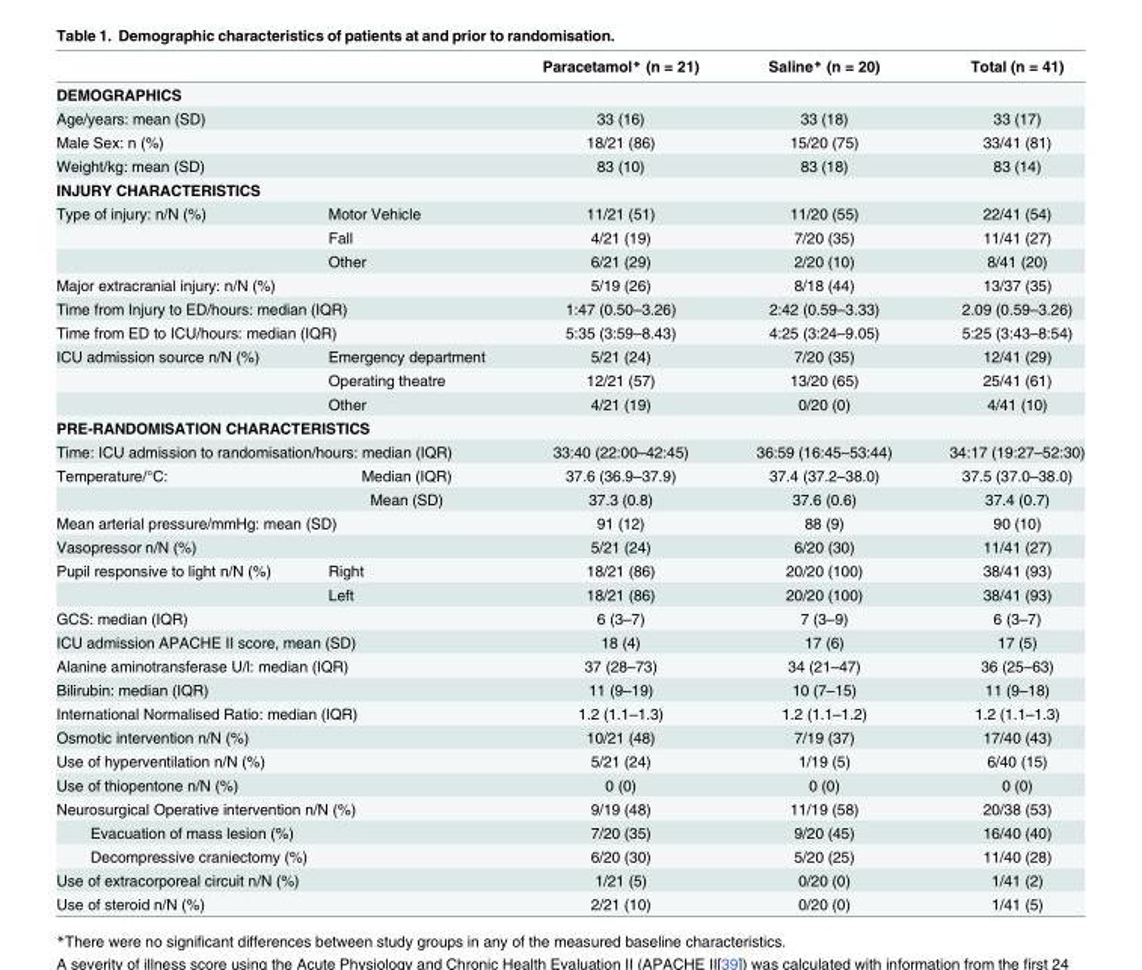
<table><thead><tr><td></td><td></td><td>Paracetamol* (n = 21)</td><td>Saline* (n = 20)</td><td>Total (n = 41)</td></tr></thead><tbody><tr><td colspan="5">DEMOGRAPHICS</td></tr><tr><td colspan="2">Age/years: mean (SD)</td><td>33 (16)</td><td>33 (18)</td><td>33 (17)</td></tr><tr><td colspan="2">Male Sex: n (%)</td><td>18/21 (86)</td><td>15/20 (75)</td><td>33/41 (81)</td></tr><tr><td colspan="2">Weight/kg: mean (SD)</td><td>83 (10)</td><td>83 (18)</td><td>83 (14)</td></tr><tr><td colspan="5">INJURY CHARACTERISTICS</td></tr><tr><td rowspan="3">Type of injury: n/N (%)</td><td>Motor Vehicle</td><td>11/21 (51)</td><td>11/20 (55)</td><td>22/41 (54)</td></tr><tr><td>Fall</td><td>4/21 (19)</td><td>7/20 (35)</td><td>11/41 (27)</td></tr><tr><td>Other</td><td>6/21 (29)</td><td>2/20 (10)</td><td>8/41 (20)</td></tr><tr><td colspan="2">Major extracranial injury: n/N (%)</td><td>5/19 (26)</td><td>8/18 (44)</td><td>13/37 (35)</td></tr><tr><td colspan="2">Time from Injury to ED/hours: median (IQR)</td><td>1:47 (0.50–3.26)</td><td>2:42 (0.59–3.33)</td><td>2.09 (0.59–3.26)</td></tr><tr><td colspan="2">Time from ED to ICU/hours: median (IQR)</td><td>5:35 (3:59–8.43)</td><td>4:25 (3:24–9.05)</td><td>5:25 (3:43–8:54)</td></tr><tr><td rowspan="3">ICU admission source n/N (%)</td><td>Emergency department</td><td>5/21 (24)</td><td>7/20 (35)</td><td>12/41 (29)</td></tr><tr><td>Operating theatre</td><td>12/21 (57)</td><td>13/20 (65)</td><td>25/41 (61)</td></tr><tr><td>Other</td><td>4/21 (19)</td><td>0/20 (0)</td><td>4/41 (10)</td></tr><tr><td colspan="5">PRE-RANDOMISATION CHARACTERISTICS</td></tr><tr><td colspan="2">Time: ICU admission to randomisation/hours: median (IQR)</td><td>33:40 (22:00–42:45)</td><td>36:59 (16:45–53:44)</td><td>34:17 (19:27–52:30)</td></tr><tr><td rowspan="2">Temperature/°C:</td><td>Median (IQR)</td><td>37.6 (36.9–37.9)</td><td>37.4 (37.2–38.0)</td><td>37.5 (37.0–38.0)</td></tr><tr><td>Mean (SD)</td><td>37.3 (0.8)</td><td>37.6 (0.6)</td><td>37.4 (0.7)</td></tr><tr><td colspan="2">Mean arterial pressure/mmHg: mean (SD)</td><td>91 (12)</td><td>88 (9)</td><td>90 (10)</td></tr><tr><td colspan="2">Vasopressor n/N (%)</td><td>5/21 (24)</td><td>6/20 (30)</td><td>11/41 (27)</td></tr><tr><td rowspan="2">Pupil responsive to light n/N (%)</td><td>Right</td><td>18/21 (86)</td><td>20/20 (100)</td><td>38/41 (93)</td></tr><tr><td>Left</td><td>18/21 (86)</td><td>20/20 (100)</td><td>38/41 (93)</td></tr><tr><td colspan="2">GCS: median (IQR)</td><td>6 (3–7)</td><td>7 (3–9)</td><td>6 (3–7)</td></tr><tr><td colspan="2">ICU admission APACHE II score, mean (SD)</td><td>18 (4)</td><td>17 (6)</td><td>17 (5)</td></tr><tr><td colspan="2">Alanine aminotransferase U/l: median (IQR)</td><td>37 (28–73)</td><td>34 (21–47)</td><td>36 (25–63)</td></tr><tr><td colspan="2">Bilirubin: median (IQR)</td><td>11 (9–19)</td><td>10 (7–15)</td><td>11 (9–18)</td></tr><tr><td colspan="2">International Normalised Ratio: median (IQR)</td><td>1.2 (1.1–1.3)</td><td>1.2 (1.1–1.2)</td><td>1.2 (1.1–1.3)</td></tr><tr><td colspan="2">Osmotic intervention n/N (%)</td><td>10/21 (48)</td><td>7/19 (37)</td><td>17/40 (43)</td></tr><tr><td colspan="2">Use of hyperventilation n/N (%)</td><td>5/21 (24)</td><td>1/19 (5)</td><td>6/40 (15)</td></tr><tr><td colspan="2">Use of thiopentone n/N (%)</td><td>0 (0)</td><td>0 (0)</td><td>0 (0)</td></tr><tr><td colspan="2">Neurosurgical Operative intervention n/N (%)</td><td>9/19 (48)</td><td>11/19 (58)</td><td>20/38 (53)</td></tr><tr><td colspan="2">Evacuation of mass lesion (%)</td><td>7/20 (35)</td><td>9/20 (45)</td><td>16/40 (40)</td></tr><tr><td colspan="2">Decompressive craniectomy (%)</td><td>6/20 (30)</td><td>5/20 (25)</td><td>11/40 (28)</td></tr><tr><td colspan="2">Use of extracorporeal circuit n/N (%)</td><td>1/21 (5)</td><td>0/20 (0)</td><td>1/41 (2)</td></tr><tr><td colspan="2">Use of steroid n/N (%)</td><td>2/21 (10)</td><td>0/20 (0)</td><td>1/41 (5)</td></tr></tbody></table>